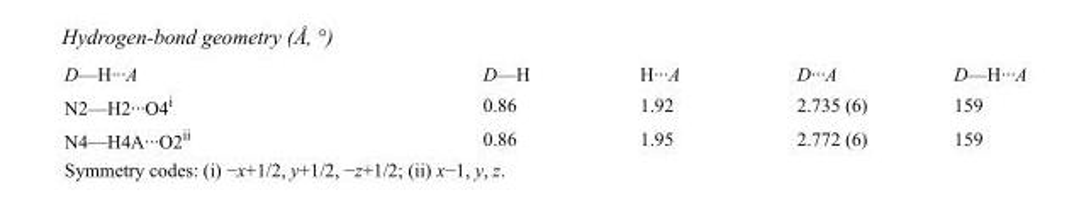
<table><tbody><tr><td>D—H···A</td><td>D—H</td><td>H···A</td><td>D···A</td><td>D—H···A</td></tr><tr><td>N2—H2···O4<sup>i</sup></td><td>0.86</td><td>1.92</td><td>2.735 (6)</td><td>159</td></tr><tr><td>N4—H4A···O2<sup>ii</sup></td><td>0.86</td><td>1.95</td><td>2.772 (6)</td><td>159</td></tr></tbody></table>